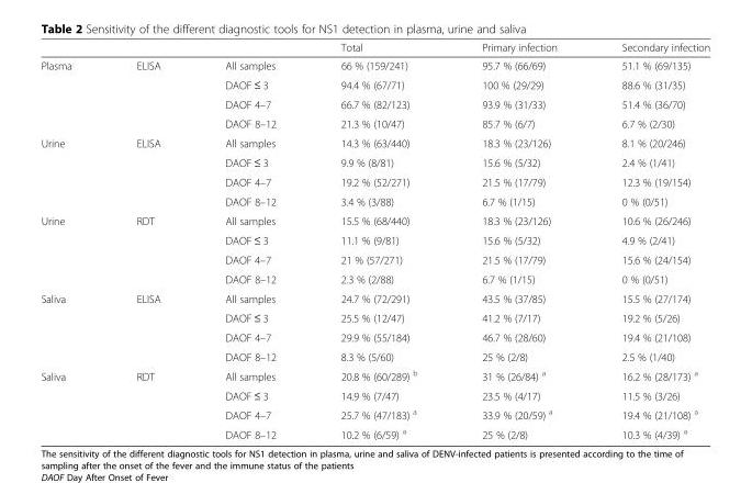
<table><thead><tr><td></td><td></td><td></td><td>Total</td><td>Primary infection</td><td>Secondary infection</td></tr></thead><tbody><tr><td rowspan="4">Plasma</td><td>ELISA</td><td>All samples</td><td>66 % (159/241)</td><td>95.7 % (66/69)</td><td>51.1 % (69/135)</td></tr><tr><td></td><td>DAOF ≤ 3</td><td>94.4 % (67/71)</td><td>100 % (29/29)</td><td>88.6 % (31/35)</td></tr><tr><td></td><td>DAOF 4–7</td><td>66.7 % (82/123)</td><td>93.9 % (31/33)</td><td>51.4 % (36/70)</td></tr><tr><td></td><td>DAOF 8–12</td><td>21.3 % (10/47)</td><td>85.7 % (6/7)</td><td>6.7 % (2/30)</td></tr><tr><td rowspan="4">Urine</td><td>ELISA</td><td>All samples</td><td>14.3 % (63/440)</td><td>18.3 % (23/126)</td><td>8.1 % (20/246)</td></tr><tr><td></td><td>DAOF ≤ 3</td><td>9.9 % (8/81)</td><td>15.6 % (5/32)</td><td>2.4 % (1/41)</td></tr><tr><td></td><td>DAOF 4–7</td><td>19.2 % (52/271)</td><td>21.5 % (17/79)</td><td>12.3 % (19/154)</td></tr><tr><td></td><td>DAOF 8–12</td><td>3.4 % (3/88)</td><td>6.7 % (1/15)</td><td>0 % (0/51)</td></tr><tr><td rowspan="4">Urine</td><td>RDT</td><td>All samples</td><td>15.5 % (68/440)</td><td>18.3 % (23/126)</td><td>10.6 % (26/246)</td></tr><tr><td></td><td>DAOF ≤ 3</td><td>11.1 % (9/81)</td><td>15.6 % (5/32)</td><td>4.9 % (2/41)</td></tr><tr><td></td><td>DAOF 4–7</td><td>21 % (57/271)</td><td>21.5 % (17/79)</td><td>15.6 % (24/154)</td></tr><tr><td></td><td>DAOF 8–12</td><td>2.3 % (2/88)</td><td>6.7 % (1/15)</td><td>0 % (0/51)</td></tr><tr><td rowspan="4">Saliva</td><td>ELISA</td><td>All samples</td><td>24.7 % (72/291)</td><td>43.5 % (37/85)</td><td>15.5 % (27/174)</td></tr><tr><td></td><td>DAOF ≤ 3</td><td>25.5 % (12/47)</td><td>41.2 % (7/17)</td><td>19.2 % (5/26)</td></tr><tr><td></td><td>DAOF 4–7</td><td>29.9 % (55/184)</td><td>46.7 % (28/60)</td><td>19.4 % (21/108)</td></tr><tr><td></td><td>DAOF 8–12</td><td>8.3 % (5/60)</td><td>25 % (2/8)</td><td>2.5 % (1/40)</td></tr><tr><td rowspan="4">Saliva</td><td>RDT</td><td>All samples</td><td>20.8 % (60/289) <sup>b</sup></td><td>31 % (26/84) <sup>a</sup></td><td>16.2 % (28/173) <sup>a</sup></td></tr><tr><td></td><td>DAOF ≤ 3</td><td>14.9 % (7/47)</td><td>23.5 % (4/17)</td><td>11.5 % (3/26)</td></tr><tr><td></td><td>DAOF 4–7</td><td>25.7 % (47/183) <sup>a</sup></td><td>33.9 % (20/59) <sup>a</sup></td><td>19.4 % (21/108) <sup>a</sup></td></tr><tr><td></td><td>DAOF 8–12</td><td>10.2 % (6/59) <sup>a</sup></td><td>25 % (2/8)</td><td>10.3 % (4/39) <sup>a</sup></td></tr></tbody></table>